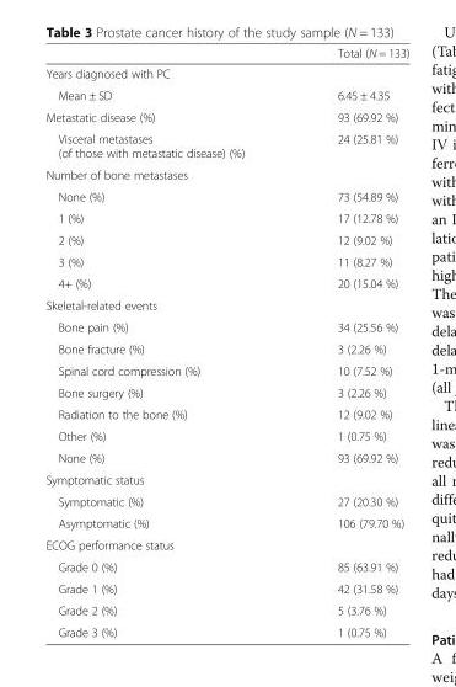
<table><thead><tr><td></td><td>Total (N = 133)</td></tr></thead><tbody><tr><td colspan="2">Years diagnosed with PC</td></tr><tr><td>Mean ± SD</td><td>6.45 ± 4.35</td></tr><tr><td>Metastatic disease (%)</td><td>93 (69.92 %)</td></tr><tr><td>Visceral metastases (of those with metastatic disease) (%)</td><td>24 (25.81 %)</td></tr><tr><td colspan="2">Number of bone metastases</td></tr><tr><td>None (%)</td><td>73 (54.89 %)</td></tr><tr><td>1 (%)</td><td>17 (12.78 %)</td></tr><tr><td>2 (%)</td><td>12 (9.02 %)</td></tr><tr><td>3 (%)</td><td>11 (8.27 %)</td></tr><tr><td>4+ (%)</td><td>20 (15.04 %)</td></tr><tr><td colspan="2">Skeletal-related events</td></tr><tr><td>Bone pain (%)</td><td>34 (25.56 %)</td></tr><tr><td>Bone fracture (%)</td><td>3 (2.26 %)</td></tr><tr><td>Spinal cord compression (%)</td><td>10 (7.52 %)</td></tr><tr><td>Bone surgery (%)</td><td>3 (2.26 %)</td></tr><tr><td>Radiation to the bone (%)</td><td>12 (9.02 %)</td></tr><tr><td>Other (%)</td><td>1 (0.75 %)</td></tr><tr><td>None (%)</td><td>93 (69.92 %)</td></tr><tr><td colspan="2">Symptomatic status</td></tr><tr><td>Symptomatic (%)</td><td>27 (20.30 %)</td></tr><tr><td>Asymptomatic (%)</td><td>106 (79.70 %)</td></tr><tr><td colspan="2">ECOG performance status</td></tr><tr><td>Grade 0 (%)</td><td>85 (63.91 %)</td></tr><tr><td>Grade 1 (%)</td><td>42 (31.58 %)</td></tr><tr><td>Grade 2 (%)</td><td>5 (3.76 %)</td></tr><tr><td>Grade 3 (%)</td><td>1 (0.75 %)</td></tr></tbody></table>